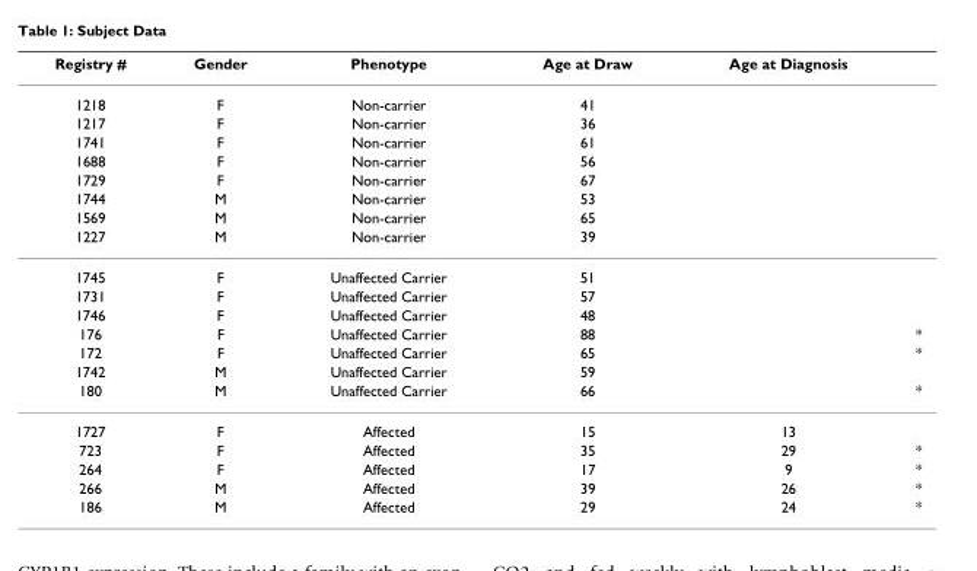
<table><thead><tr><td>Registry #</td><td>Gender</td><td>Phenotype</td><td>Age at Draw</td><td>Age at Diagnosis</td><td></td></tr></thead><tbody><tr><td>1218</td><td>F</td><td>Non-carrier</td><td>41</td><td></td><td></td></tr><tr><td>1217</td><td>F</td><td>Non-carrier</td><td>36</td><td></td><td></td></tr><tr><td>1741</td><td>F</td><td>Non-carrier</td><td>61</td><td></td><td></td></tr><tr><td>1688</td><td>F</td><td>Non-carrier</td><td>56</td><td></td><td></td></tr><tr><td>1729</td><td>F</td><td>Non-carrier</td><td>67</td><td></td><td></td></tr><tr><td>1744</td><td>M</td><td>Non-carrier</td><td>53</td><td></td><td></td></tr><tr><td>1569</td><td>M</td><td>Non-carrier</td><td>65</td><td></td><td></td></tr><tr><td>1227</td><td>M</td><td>Non-carrier</td><td>39</td><td></td><td></td></tr><tr><td>1745</td><td>F</td><td>Unaffected Carrier</td><td>51</td><td></td><td></td></tr><tr><td>1731</td><td>F</td><td>Unaffected Carrier</td><td>57</td><td></td><td></td></tr><tr><td>1746</td><td>F</td><td>Unaffected Carrier</td><td>48</td><td></td><td></td></tr><tr><td>176</td><td>F</td><td>Unaffected Carrier</td><td>88</td><td></td><td>*</td></tr><tr><td>172</td><td>F</td><td>Unaffected Carrier</td><td>65</td><td></td><td>*</td></tr><tr><td>1742</td><td>M</td><td>Unaffected Carrier</td><td>59</td><td></td><td></td></tr><tr><td>180</td><td>M</td><td>Unaffected Carrier</td><td>66</td><td></td><td>*</td></tr><tr><td>1727</td><td>F</td><td>Affected</td><td>15</td><td>13</td><td></td></tr><tr><td>723</td><td>F</td><td>Affected</td><td>35</td><td>29</td><td>*</td></tr><tr><td>264</td><td>F</td><td>Affected</td><td>17</td><td>9</td><td>*</td></tr><tr><td>266</td><td>M</td><td>Affected</td><td>39</td><td>26</td><td>*</td></tr><tr><td>186</td><td>M</td><td>Affected</td><td>29</td><td>24</td><td>*</td></tr></tbody></table>